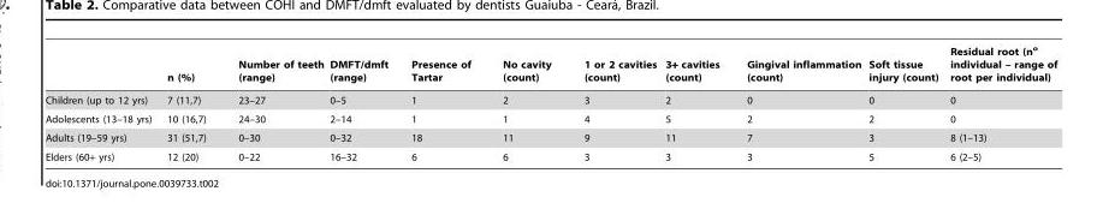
<table><thead><tr><td></td><td>n (%)</td><td>Number of teeth (range)</td><td>DMFT/dmft (range)</td><td>Presence of Tartar</td><td>No cavity (count)</td><td>1 or 2 cavities (count)</td><td>3+ cavities (count)</td><td>Gingival inflammation (count)</td><td>Soft tissue injury (count)</td><td>Residual root (n<sup>o</sup> individual – range of root per individual)</td></tr></thead><tbody><tr><td>Children (up to 12 yrs)</td><td>7 (11,7)</td><td>23–27</td><td>0–5</td><td>1</td><td>2</td><td>3</td><td>2</td><td>0</td><td>0</td><td>0</td></tr><tr><td>Adolescents (13–18 yrs)</td><td>10 (16,7)</td><td>24–30</td><td>2–14</td><td>1</td><td>1</td><td>4</td><td>5</td><td>2</td><td>2</td><td>0</td></tr><tr><td>Adults (19–59 yrs)</td><td>31 (51,7)</td><td>0–30</td><td>0–32</td><td>18</td><td>11</td><td>9</td><td>11</td><td>7</td><td>3</td><td>8 (1–13)</td></tr><tr><td>Elders (60+ yrs)</td><td>12 (20)</td><td>0–22</td><td>16–32</td><td>6</td><td>6</td><td>3</td><td>3</td><td>3</td><td>5</td><td>6 (2–5)</td></tr></tbody></table>